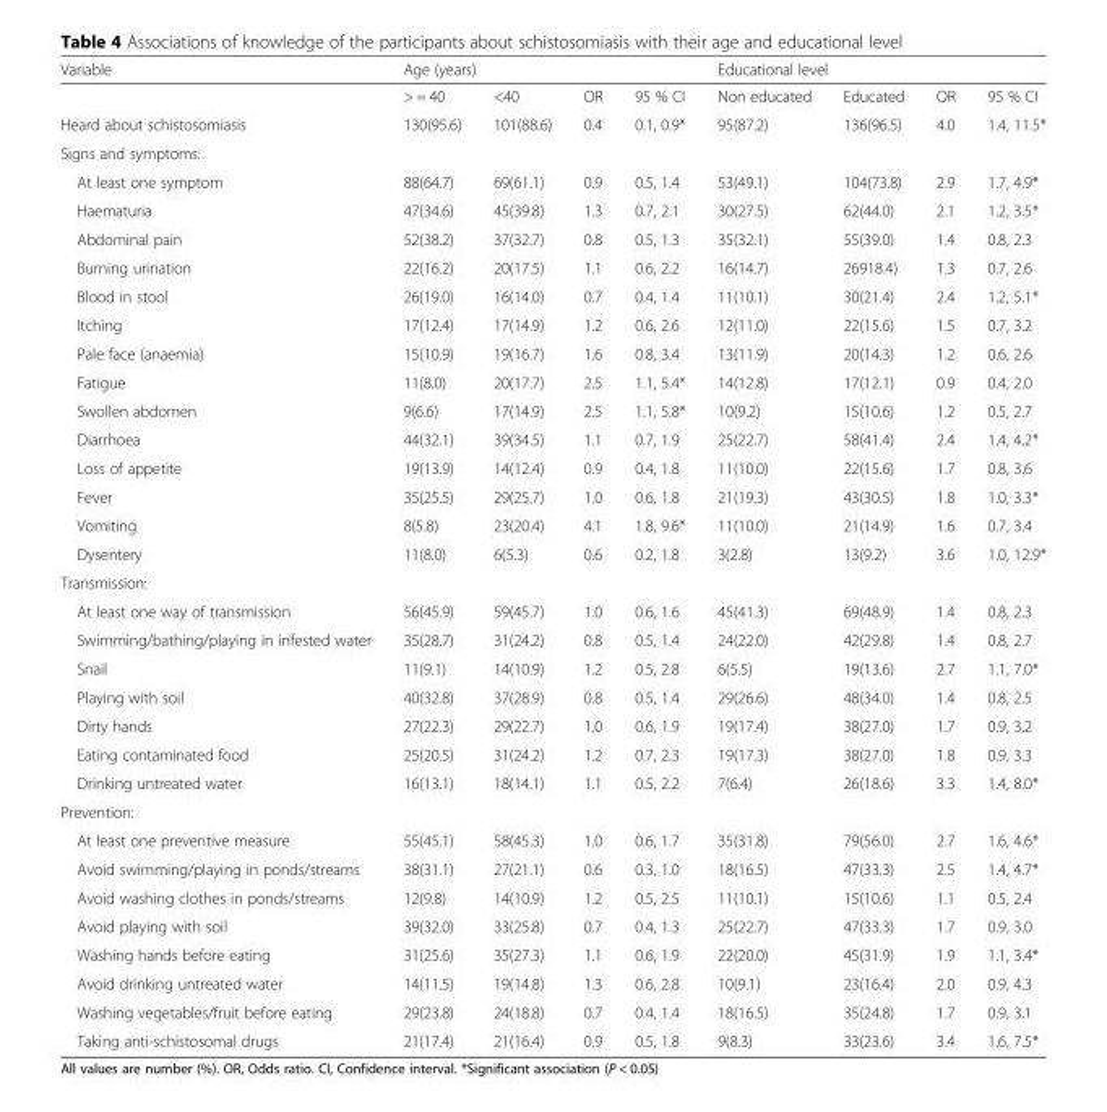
<table><thead><tr><td rowspan="2">Variable</td><td colspan="2">Age (years)</td><td rowspan="2">OR</td><td rowspan="2">95 % CI</td><td colspan="3">Educational level</td><td rowspan="2">95 % CI</td></tr><tr><td>&gt; = 40</td><td>&lt;40</td><td>Non educated</td><td>Educated</td><td>OR</td></tr></thead><tbody><tr><td>Heard about schistosomiasis</td><td>130(95.6)</td><td>101(88.6)</td><td>0.4</td><td>0.1, 0.9*</td><td>95(87.2)</td><td>136(96.5)</td><td>4.0</td><td>1.4, 11.5*</td></tr><tr><td colspan="9">Signs and symptoms:</td></tr><tr><td>At least one symptom</td><td>88(64.7)</td><td>69(61.1)</td><td>0.9</td><td>0.5, 1.4</td><td>53(49.1)</td><td>104(73.8)</td><td>2.9</td><td>1.7, 4.9*</td></tr><tr><td>Haematuria</td><td>47(34.6)</td><td>45(39.8)</td><td>1.3</td><td>0.7, 2.1</td><td>30(27.5)</td><td>62(44.0)</td><td>2.1</td><td>1.2, 3.5*</td></tr><tr><td>Abdominal pain</td><td>52(38.2)</td><td>37(32.7)</td><td>0.8</td><td>0.5, 1.3</td><td>35(32.1)</td><td>55(39.0)</td><td>1.4</td><td>0.8, 2.3</td></tr><tr><td>Burning urination</td><td>22(16.2)</td><td>20(17.5)</td><td>1.1</td><td>0.6, 2.2</td><td>16(14.7)</td><td>26918.4)</td><td>1.3</td><td>0.7, 2.6</td></tr><tr><td>Blood in stool</td><td>26(19.0)</td><td>16(14.0)</td><td>0.7</td><td>0.4, 1.4</td><td>11(10.1)</td><td>30(21.4)</td><td>2.4</td><td>1.2, 5.1*</td></tr><tr><td>Itching</td><td>17(12.4)</td><td>17(14.9)</td><td>1.2</td><td>0.6, 2.6</td><td>12(11.0)</td><td>22(15.6)</td><td>1.5</td><td>0.7, 3.2</td></tr><tr><td>Pale face (anaemia)</td><td>15(10.9)</td><td>19(16.7)</td><td>1.6</td><td>0.8, 3.4</td><td>13(11.9)</td><td>20(14.3)</td><td>1.2</td><td>0.6, 2.6</td></tr><tr><td>Fatigue</td><td>11(8.0)</td><td>20(17.7)</td><td>2.5</td><td>1.1, 5.4*</td><td>14(12.8)</td><td>17(12.1)</td><td>0.9</td><td>0.4, 2.0</td></tr><tr><td>Swollen abdomen</td><td>9(6.6)</td><td>17(14.9)</td><td>2.5</td><td>1.1, 5.8*</td><td>10(9.2)</td><td>15(10.6)</td><td>1.2</td><td>0.5, 2.7</td></tr><tr><td>Diarrhoea</td><td>44(32.1)</td><td>39(34.5)</td><td>1.1</td><td>0.7, 1.9</td><td>25(22.7)</td><td>58(41.4)</td><td>2.4</td><td>1.4, 4.2*</td></tr><tr><td>Loss of appetite</td><td>19(13.9)</td><td>14(12.4)</td><td>0.9</td><td>0.4, 1.8</td><td>11(10.0)</td><td>22(15.6)</td><td>1.7</td><td>0.8, 3.6</td></tr><tr><td>Fever</td><td>35(25.5)</td><td>29(25.7)</td><td>1.0</td><td>0.6, 1.8</td><td>21(19.3)</td><td>43(30.5)</td><td>1.8</td><td>1.0, 3.3*</td></tr><tr><td>Vomiting</td><td>8(5.8)</td><td>23(20.4)</td><td>4.1</td><td>1.8, 9.6*</td><td>11(10.0)</td><td>21(14.9)</td><td>1.6</td><td>0.7, 3.4</td></tr><tr><td>Dysentery</td><td>11(8.0)</td><td>6(5.3)</td><td>0.6</td><td>0.2, 1.8</td><td>3(2.8)</td><td>13(9.2)</td><td>3.6</td><td>1.0, 12.9*</td></tr><tr><td colspan="9">Transmission:</td></tr><tr><td>At least one way of transmission</td><td>56(45.9)</td><td>59(45.7)</td><td>1.0</td><td>0.6, 1.6</td><td>45(41.3)</td><td>69(48.9)</td><td>1.4</td><td>0.8, 2.3</td></tr><tr><td>Swimming/bathing/playing in infested water</td><td>35(28.7)</td><td>31(24.2)</td><td>0.8</td><td>0.5, 1.4</td><td>24(22.0)</td><td>42(29.8)</td><td>1.4</td><td>0.8, 2.7</td></tr><tr><td>Snail</td><td>11(9.1)</td><td>14(10.9)</td><td>1.2</td><td>0.5, 2.8</td><td>6(5.5)</td><td>19(13.6)</td><td>2.7</td><td>1.1, 7.0*</td></tr><tr><td>Playing with soil</td><td>40(32.8)</td><td>37(28.9)</td><td>0.8</td><td>0.5, 1.4</td><td>29(26.6)</td><td>48(34.0)</td><td>1.4</td><td>0.8, 2.5</td></tr><tr><td>Dirty hands</td><td>27(22.3)</td><td>29(22.7)</td><td>1.0</td><td>0.6, 1.9</td><td>19(17.4)</td><td>38(27.0)</td><td>1.7</td><td>0.9, 3.2</td></tr><tr><td>Eating contaminated food</td><td>25(20.5)</td><td>31(24.2)</td><td>1.2</td><td>0.7, 2.3</td><td>19(17.3)</td><td>38(27.0)</td><td>1.8</td><td>0.9, 3.3</td></tr><tr><td>Drinking untreated water</td><td>16(13.1)</td><td>18(14.1)</td><td>1.1</td><td>0.5, 2.2</td><td>7(6.4)</td><td>26(18.6)</td><td>3.3</td><td>1.4, 8.0*</td></tr><tr><td colspan="9">Prevention:</td></tr><tr><td>At least one preventive measure</td><td>55(45.1)</td><td>58(45.3)</td><td>1.0</td><td>0.6, 1.7</td><td>35(31.8)</td><td>79(56.0)</td><td>2.7</td><td>1.6, 4.6*</td></tr><tr><td>Avoid swimming/playing in ponds/streams</td><td>38(31.1)</td><td>27(21.1)</td><td>0.6</td><td>0.3, 1.0</td><td>18(16.5)</td><td>47(33.3)</td><td>2.5</td><td>1.4, 4.7*</td></tr><tr><td>Avoid washing clothes in ponds/streams</td><td>12(9.8)</td><td>14(10.9)</td><td>1.2</td><td>0.5, 2.5</td><td>11(10.1)</td><td>15(10.6)</td><td>1.1</td><td>0.5, 2.4</td></tr><tr><td>Avoid playing with soil</td><td>39(32.0)</td><td>33(25.8)</td><td>0.7</td><td>0.4, 1.3</td><td>25(22.7)</td><td>47(33.3)</td><td>1.7</td><td>0.9, 3.0</td></tr><tr><td>Washing hands before eating</td><td>31(25.6)</td><td>35(27.3)</td><td>1.1</td><td>0.6, 1.9</td><td>22(20.0)</td><td>45(31.9)</td><td>1.9</td><td>1.1, 3.4*</td></tr><tr><td>Avoid drinking untreated water</td><td>14(11.5)</td><td>19(14.8)</td><td>1.3</td><td>0.6, 2.8</td><td>10(9.1)</td><td>23(16.4)</td><td>2.0</td><td>0.9, 4.3</td></tr><tr><td>Washing vegetables/fruit before eating</td><td>29(23.8)</td><td>24(18.8)</td><td>0.7</td><td>0.4, 1.4</td><td>18(16.5)</td><td>35(24.8)</td><td>1.7</td><td>0.9, 3.1</td></tr><tr><td>Taking anti-schistosomal drugs</td><td>21(17.4)</td><td>21(16.4)</td><td>0.9</td><td>0.5, 1.8</td><td>9(8.3)</td><td>33(23.6)</td><td>3.4</td><td>1.6, 7.5*</td></tr></tbody></table>